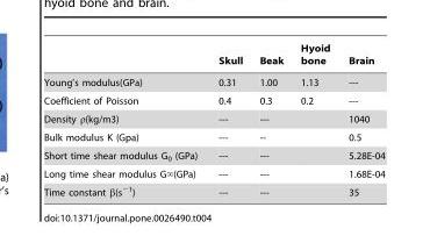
<table><thead><tr><td></td><td>Skull</td><td>Beak</td><td>Hyoid bone</td><td>Brain</td></tr></thead><tbody><tr><td>Young’s modulus(GPa)</td><td>0.31</td><td>1.00</td><td>1.13</td><td>---</td></tr><tr><td>Coefficient of Poisson</td><td>0.4</td><td>0.3</td><td>0.2</td><td>---</td></tr><tr><td>Density ρ(kg/m3)</td><td>---</td><td>---</td><td></td><td>1040</td></tr><tr><td>Bulk modulus K (Gpa)</td><td>---</td><td>--</td><td></td><td>0.5</td></tr><tr><td>Short time shear modulus G<sub>0</sub> (GPa)</td><td>---</td><td>---</td><td></td><td>5.28E-04</td></tr><tr><td>Long time shear modulus G‘(GPa)</td><td>---</td><td>---</td><td></td><td>1.68E-04</td></tr><tr><td>Time constant β(s<sup>−1</sup>)</td><td>---</td><td>---</td><td></td><td>35</td></tr></tbody></table>